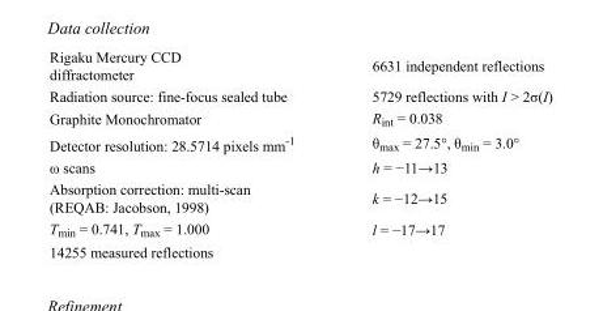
<table><tbody><tr><td>Rigaku Mercury CCD diffractometer</td><td>6631 independent reflections</td></tr><tr><td>Radiation source: fine-focus sealed tube</td><td>5729 reflections with I &gt; 2σ(I)</td></tr><tr><td>Graphite Monochromator</td><td>R<sub>int</sub> = 0.038</td></tr><tr><td>Detector resolution: 28.5714 pixels mm<sup>-1</sup></td><td>θ<sub>max</sub> = 27.5°, θ<sub>min</sub> = 3.0°</td></tr><tr><td>ω scans</td><td>h = −11→13</td></tr><tr><td>Absorption correction: multi-scan (REQAB: Jacobson, 1998)</td><td>k = −12→15</td></tr><tr><td>T<sub>min</sub> = 0.741, T<sub>max</sub> = 1.000</td><td>l = −17→17</td></tr><tr><td>14255 measured reflections</td><td></td></tr></tbody></table>